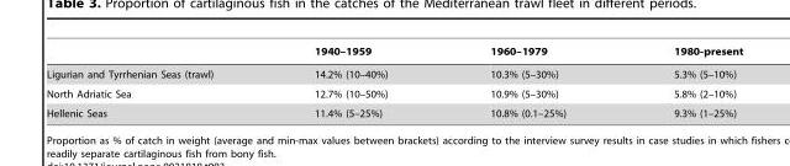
<table><thead><tr><td></td><td>1940–1959</td><td>1960–1979</td><td>1980-present</td></tr></thead><tbody><tr><td>Ligurian and Tyrrhenian Seas (trawl)</td><td>14.2% (10–40%)</td><td>10.3% (5–30%)</td><td>5.3% (5–10%)</td></tr><tr><td>North Adriatic Sea</td><td>12.7% (10–50%)</td><td>10.9% (5–30%)</td><td>5.8% (2–10%)</td></tr><tr><td>Hellenic Seas</td><td>11.4% (5–25%)</td><td>10.8% (0.1–25%)</td><td>9.3% (1–25%)</td></tr></tbody></table>